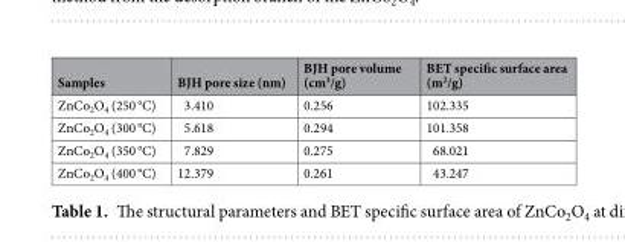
<table><thead><tr><td>Samples</td><td>BJH pore size (nm)</td><td>BJH pore volume (cm<sup>3</sup>/g)</td><td>BET specific surface area (m<sup>2</sup>/g)</td></tr></thead><tbody><tr><td>ZnCo<sub>2</sub>O<sub>4</sub> (250 °C)</td><td>3.410</td><td>0.256</td><td>102.335</td></tr><tr><td>ZnCo<sub>2</sub>O<sub>4</sub> (300 °C)</td><td>5.618</td><td>0.294</td><td>101.358</td></tr><tr><td>ZnCo<sub>2</sub>O<sub>4</sub> (350 °C)</td><td>7.829</td><td>0.275</td><td>68.021</td></tr><tr><td>ZnCo<sub>2</sub>O<sub>4</sub> (400 °C)</td><td>12.379</td><td>0.261</td><td>43.247</td></tr></tbody></table>